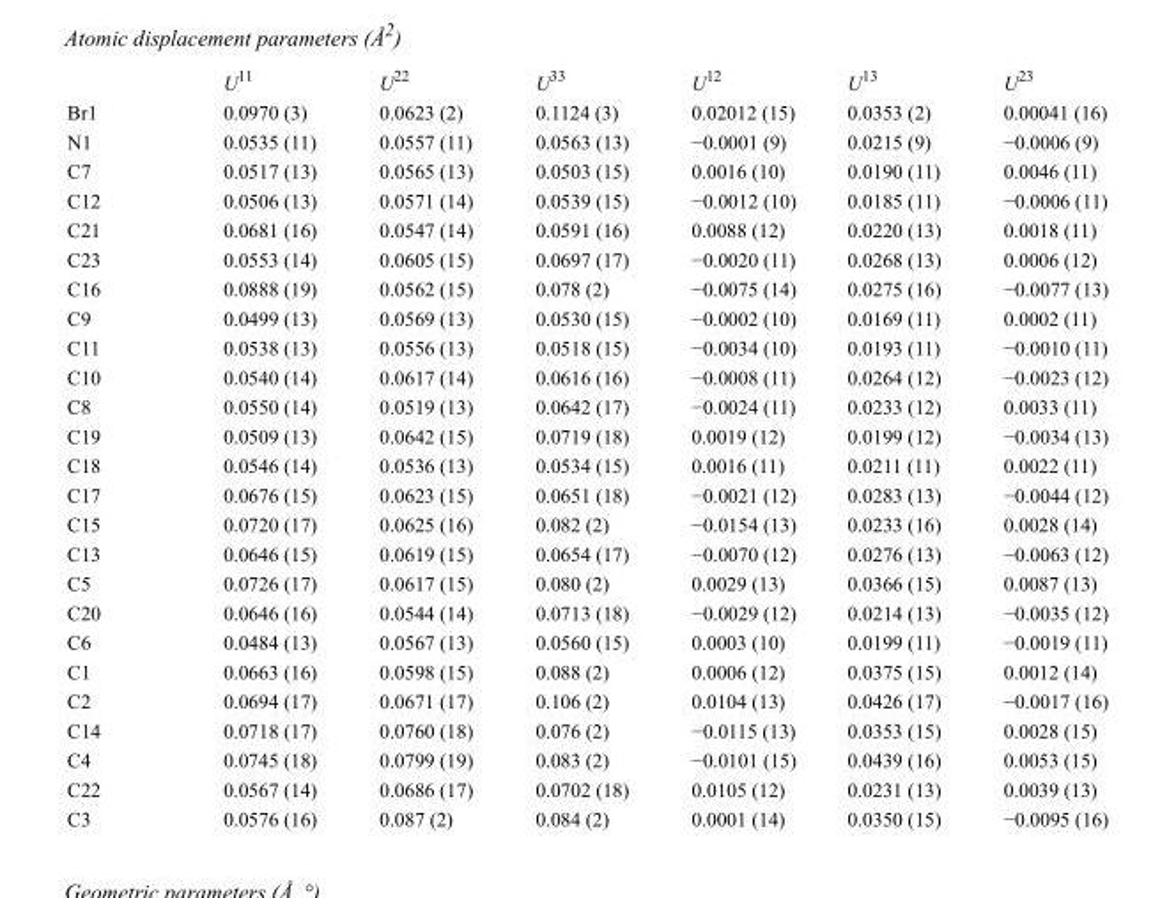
<table><thead><tr><td></td><td>U<sup>11</sup></td><td>U<sup>22</sup></td><td>U<sup>33</sup></td><td>U<sup>12</sup></td><td>U<sup>13</sup></td><td>U<sup>23</sup></td></tr></thead><tbody><tr><td>Br1</td><td>0.0970 (3)</td><td>0.0623 (2)</td><td>0.1124 (3)</td><td>0.02012 (15)</td><td>0.0353 (2)</td><td>0.00041 (16)</td></tr><tr><td>N1</td><td>0.0535 (11)</td><td>0.0557 (11)</td><td>0.0563 (13)</td><td>−0.0001 (9)</td><td>0.0215 (9)</td><td>−0.0006 (9)</td></tr><tr><td>C7</td><td>0.0517 (13)</td><td>0.0565 (13)</td><td>0.0503 (15)</td><td>0.0016 (10)</td><td>0.0190 (11)</td><td>0.0046 (11)</td></tr><tr><td>C12</td><td>0.0506 (13)</td><td>0.0571 (14)</td><td>0.0539 (15)</td><td>−0.0012 (10)</td><td>0.0185 (11)</td><td>−0.0006 (11)</td></tr><tr><td>C21</td><td>0.0681 (16)</td><td>0.0547 (14)</td><td>0.0591 (16)</td><td>0.0088 (12)</td><td>0.0220 (13)</td><td>0.0018 (11)</td></tr><tr><td>C23</td><td>0.0553 (14)</td><td>0.0605 (15)</td><td>0.0697 (17)</td><td>−0.0020 (11)</td><td>0.0268 (13)</td><td>0.0006 (12)</td></tr><tr><td>C16</td><td>0.0888 (19)</td><td>0.0562 (15)</td><td>0.078 (2)</td><td>−0.0075 (14)</td><td>0.0275 (16)</td><td>−0.0077 (13)</td></tr><tr><td>C9</td><td>0.0499 (13)</td><td>0.0569 (13)</td><td>0.0530 (15)</td><td>−0.0002 (10)</td><td>0.0169 (11)</td><td>0.0002 (11)</td></tr><tr><td>C11</td><td>0.0538 (13)</td><td>0.0556 (13)</td><td>0.0518 (15)</td><td>−0.0034 (10)</td><td>0.0193 (11)</td><td>−0.0010 (11)</td></tr><tr><td>C10</td><td>0.0540 (14)</td><td>0.0617 (14)</td><td>0.0616 (16)</td><td>−0.0008 (11)</td><td>0.0264 (12)</td><td>−0.0023 (12)</td></tr><tr><td>C8</td><td>0.0550 (14)</td><td>0.0519 (13)</td><td>0.0642 (17)</td><td>−0.0024 (11)</td><td>0.0233 (12)</td><td>0.0033 (11)</td></tr><tr><td>C19</td><td>0.0509 (13)</td><td>0.0642 (15)</td><td>0.0719 (18)</td><td>0.0019 (12)</td><td>0.0199 (12)</td><td>−0.0034 (13)</td></tr><tr><td>C18</td><td>0.0546 (14)</td><td>0.0536 (13)</td><td>0.0534 (15)</td><td>0.0016 (11)</td><td>0.0211 (11)</td><td>0.0022 (11)</td></tr><tr><td>C17</td><td>0.0676 (15)</td><td>0.0623 (15)</td><td>0.0651 (18)</td><td>−0.0021 (12)</td><td>0.0283 (13)</td><td>−0.0044 (12)</td></tr><tr><td>C15</td><td>0.0720 (17)</td><td>0.0625 (16)</td><td>0.082 (2)</td><td>−0.0154 (13)</td><td>0.0233 (16)</td><td>0.0028 (14)</td></tr><tr><td>C13</td><td>0.0646 (15)</td><td>0.0619 (15)</td><td>0.0654 (17)</td><td>−0.0070 (12)</td><td>0.0276 (13)</td><td>−0.0063 (12)</td></tr><tr><td>C5</td><td>0.0726 (17)</td><td>0.0617 (15)</td><td>0.080 (2)</td><td>0.0029 (13)</td><td>0.0366 (15)</td><td>0.0087 (13)</td></tr><tr><td>C20</td><td>0.0646 (16)</td><td>0.0544 (14)</td><td>0.0713 (18)</td><td>−0.0029 (12)</td><td>0.0214 (13)</td><td>−0.0035 (12)</td></tr><tr><td>C6</td><td>0.0484 (13)</td><td>0.0567 (13)</td><td>0.0560 (15)</td><td>0.0003 (10)</td><td>0.0199 (11)</td><td>−0.0019 (11)</td></tr><tr><td>C1</td><td>0.0663 (16)</td><td>0.0598 (15)</td><td>0.088 (2)</td><td>0.0006 (12)</td><td>0.0375 (15)</td><td>0.0012 (14)</td></tr><tr><td>C2</td><td>0.0694 (17)</td><td>0.0671 (17)</td><td>0.106 (2)</td><td>0.0104 (13)</td><td>0.0426 (17)</td><td>−0.0017 (16)</td></tr><tr><td>C14</td><td>0.0718 (17)</td><td>0.0760 (18)</td><td>0.076 (2)</td><td>−0.0115 (13)</td><td>0.0353 (15)</td><td>0.0028 (15)</td></tr><tr><td>C4</td><td>0.0745 (18)</td><td>0.0799 (19)</td><td>0.083 (2)</td><td>−0.0101 (15)</td><td>0.0439 (16)</td><td>0.0053 (15)</td></tr><tr><td>C22</td><td>0.0567 (14)</td><td>0.0686 (17)</td><td>0.0702 (18)</td><td>0.0105 (12)</td><td>0.0231 (13)</td><td>0.0039 (13)</td></tr><tr><td>C3</td><td>0.0576 (16)</td><td>0.087 (2)</td><td>0.084 (2)</td><td>0.0001 (14)</td><td>0.0350 (15)</td><td>−0.0095 (16)</td></tr></tbody></table>